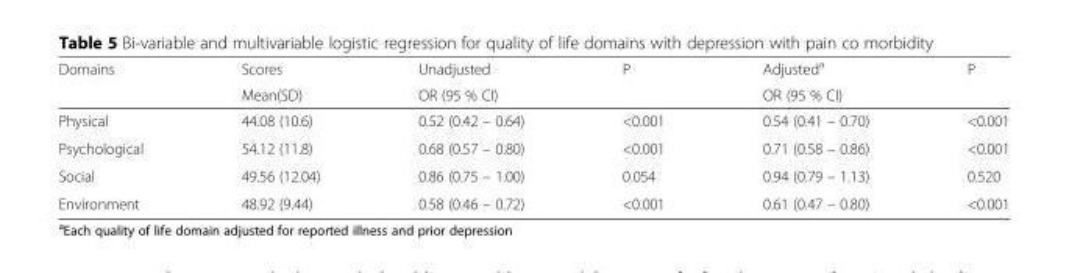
<table><thead><tr><td rowspan="2">Domains</td><td rowspan="2">Scores Mean(SD)</td><td rowspan="2">Unadjusted OR (95 % CI)</td><td rowspan="2">P</td><td rowspan="2">Adjusted<sup>a</sup> OR (95 % CI)</td><td rowspan="2">P</td></tr><tr></tr></thead><tbody><tr><td>Physical</td><td>44.08 (10.6)</td><td>0.52 (0.42 – 0.64)</td><td>&lt;0.001</td><td>0.54 (0.41 – 0.70)</td><td>&lt;0.001</td></tr><tr><td>Psychological</td><td>54.12 (11.8)</td><td>0.68 (0.57 – 0.80)</td><td>&lt;0.001</td><td>0.71 (0.58 – 0.86)</td><td>&lt;0.001</td></tr><tr><td>Social</td><td>49.56 (12.04)</td><td>0.86 (0.75 – 1.00)</td><td>0.054</td><td>0.94 (0.79 – 1.13)</td><td>0.520</td></tr><tr><td>Environment</td><td>48.92 (9.44)</td><td>0.58 (0.46 – 0.72)</td><td>&lt;0.001</td><td>0.61 (0.47 – 0.80)</td><td>&lt;0.001</td></tr></tbody></table>